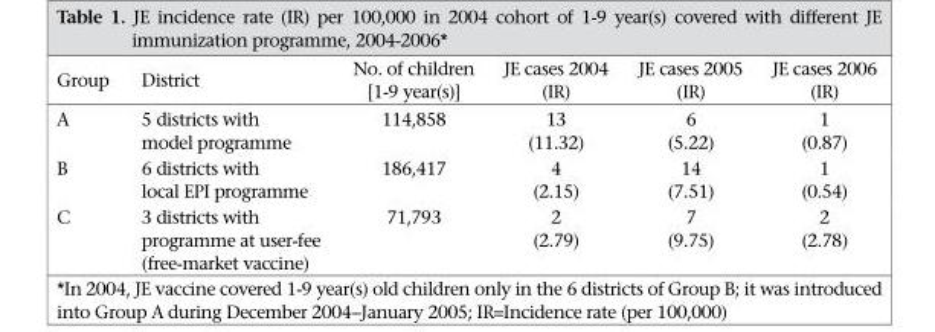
<table><thead><tr><td>Group</td><td>District</td><td>No. of children [1-9 year(s)]</td><td>JE cases 2004 (IR)</td><td>JE cases 2005 (IR)</td><td>JE cases 2006 (IR)</td></tr></thead><tbody><tr><td>A</td><td>5 districts with model programme</td><td>114,858</td><td>13 (11.32)</td><td>6 (5.22)</td><td>1 (0.87)</td></tr><tr><td>B</td><td>6 districts with local EPI programme</td><td>186,417</td><td>4 (2.15)</td><td>14 (7.51)</td><td>1 (0.54)</td></tr><tr><td>C</td><td>3 districts with programme at user-fee (free-market vaccine)</td><td>71,793</td><td>2 (2.79)</td><td>7 (9.75)</td><td>2 (2.78)</td></tr></tbody></table>